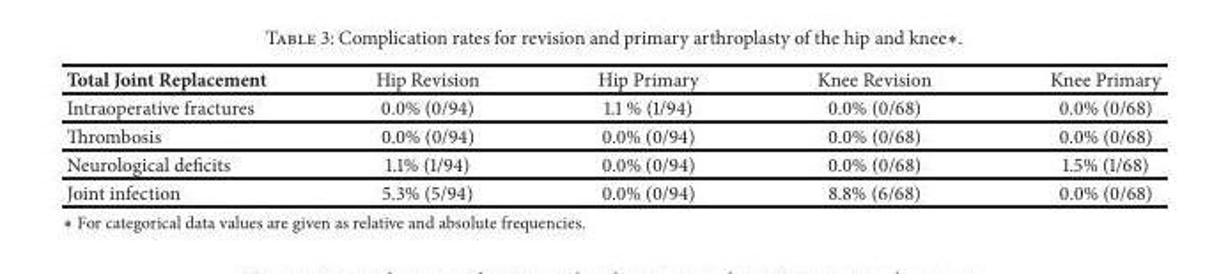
<table><thead><tr><td>Total Joint Replacement</td><td>Hip Revision</td><td>Hip Primary</td><td>Knee Revision</td><td>Knee Primary</td></tr></thead><tbody><tr><td>Intraoperative fractures</td><td>0.0% (0/94)</td><td>1.1 % (1/94)</td><td>0.0% (0/68)</td><td>0.0% (0/68)</td></tr><tr><td>Thrombosis</td><td>0.0% (0/94)</td><td>0.0% (0/94)</td><td>0.0% (0/68)</td><td>0.0% (0/68)</td></tr><tr><td>Neurological deficits</td><td>1.1% (1/94)</td><td>0.0% (0/94)</td><td>0.0% (0/68)</td><td>1.5% (1/68)</td></tr><tr><td>Joint infection</td><td>5.3% (5/94)</td><td>0.0% (0/94)</td><td>8.8% (6/68)</td><td>0.0% (0/68)</td></tr></tbody></table>